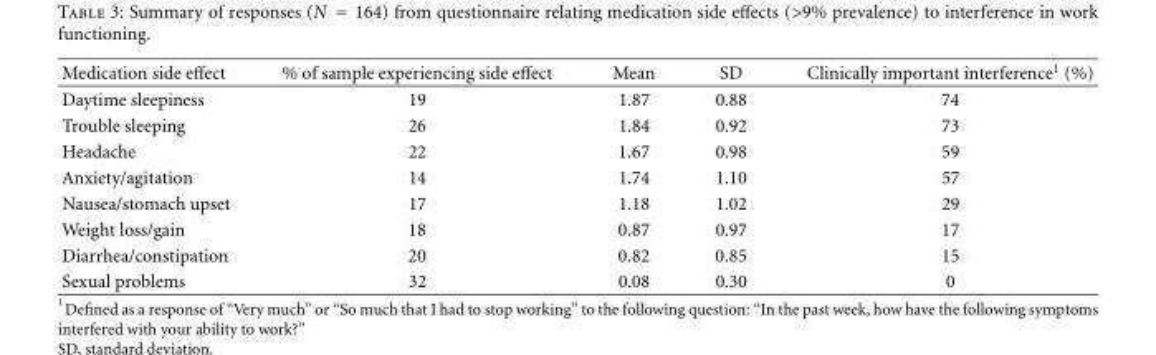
<table><thead><tr><td>Medication side effect</td><td>% of sample experiencing side effect</td><td>Mean</td><td>SD</td><td>Clinically important interference<sup>1</sup> (%)</td></tr></thead><tbody><tr><td>Daytime sleepiness</td><td>19</td><td>1.87</td><td>0.88</td><td>74</td></tr><tr><td>Trouble sleeping</td><td>26</td><td>1.84</td><td>0.92</td><td>73</td></tr><tr><td>Headache</td><td>22</td><td>1.67</td><td>0.98</td><td>59</td></tr><tr><td>Anxiety/agitation</td><td>14</td><td>1.74</td><td>1.10</td><td>57</td></tr><tr><td>Nausea/stomach upset</td><td>17</td><td>1.18</td><td>1.02</td><td>29</td></tr><tr><td>Weight loss/gain</td><td>18</td><td>0.87</td><td>0.97</td><td>17</td></tr><tr><td>Diarrhea/constipation</td><td>20</td><td>0.82</td><td>0.85</td><td>15</td></tr><tr><td>Sexual problems</td><td>32</td><td>0.08</td><td>0.30</td><td>0</td></tr></tbody></table>